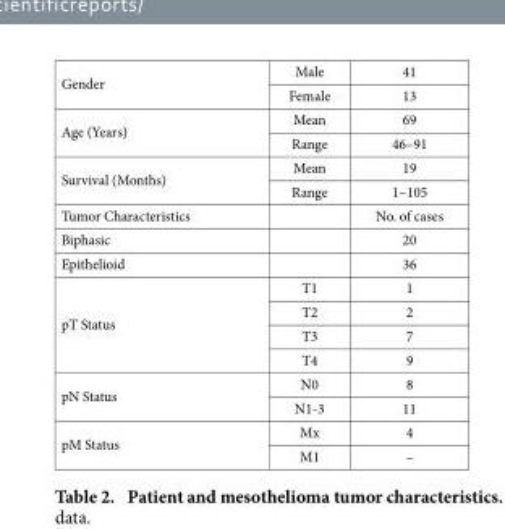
<table><tbody><tr><td rowspan="2">Gender</td><td>Male</td><td>41</td></tr><tr><td>Female</td><td>13</td></tr><tr><td rowspan="2">Age (Years)</td><td>Mean</td><td>69</td></tr><tr><td>Range</td><td>46–91</td></tr><tr><td rowspan="2">Survival (Months)</td><td>Mean</td><td>19</td></tr><tr><td>Range</td><td>1–105</td></tr><tr><td>Tumor Characteristics</td><td></td><td>No. of cases</td></tr><tr><td>Biphasic</td><td></td><td>20</td></tr><tr><td>Epithelioid</td><td></td><td>36</td></tr><tr><td rowspan="4">pT Status</td><td>T1</td><td>1</td></tr><tr><td>T2</td><td>2</td></tr><tr><td>T3</td><td>7</td></tr><tr><td>T4</td><td>9</td></tr><tr><td rowspan="2">pN Status</td><td>N0</td><td>8</td></tr><tr><td>N1-3</td><td>11</td></tr><tr><td rowspan="2">pM Status</td><td>Mx</td><td>4</td></tr><tr><td>M1</td><td>–</td></tr></tbody></table>